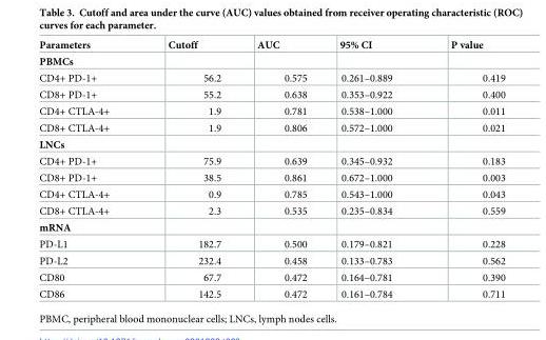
<table><thead><tr><td>Parameters</td><td>Cutoff</td><td>AUC</td><td>95% CI</td><td>P value</td></tr></thead><tbody><tr><td colspan="5">PBMCs</td></tr><tr><td>CD4+ PD-1+</td><td>56.2</td><td>0.575</td><td>0.261–0.889</td><td>0.419</td></tr><tr><td>CD8+ PD-1+</td><td>55.2</td><td>0.638</td><td>0.353–0.922</td><td>0.400</td></tr><tr><td>CD4+ CTLA-4+</td><td>1.9</td><td>0.781</td><td>0.538–1.000</td><td>0.011</td></tr><tr><td>CD8+ CTLA-4+</td><td>1.9</td><td>0.806</td><td>0.572–1.000</td><td>0.021</td></tr><tr><td colspan="5">LNCs</td></tr><tr><td>CD4+ PD-1+</td><td>75.9</td><td>0.639</td><td>0.345–0.932</td><td>0.183</td></tr><tr><td>CD8+ PD-1+</td><td>38.5</td><td>0.861</td><td>0.672–1.000</td><td>0.003</td></tr><tr><td>CD4+ CTLA-4+</td><td>0.9</td><td>0.785</td><td>0.543–1.000</td><td>0.043</td></tr><tr><td>CD8+ CTLA-4+</td><td>2.3</td><td>0.535</td><td>0.235–0.834</td><td>0.559</td></tr><tr><td colspan="5">mRNA</td></tr><tr><td>PD-L1</td><td>182.7</td><td>0.500</td><td>0.179–0.821</td><td>0.228</td></tr><tr><td>PD-L2</td><td>232.4</td><td>0.458</td><td>0.133–0.783</td><td>0.562</td></tr><tr><td>CD80</td><td>67.7</td><td>0.472</td><td>0.164–0.781</td><td>0.390</td></tr><tr><td>CD86</td><td>142.5</td><td>0.472</td><td>0.161–0.784</td><td>0.711</td></tr></tbody></table>